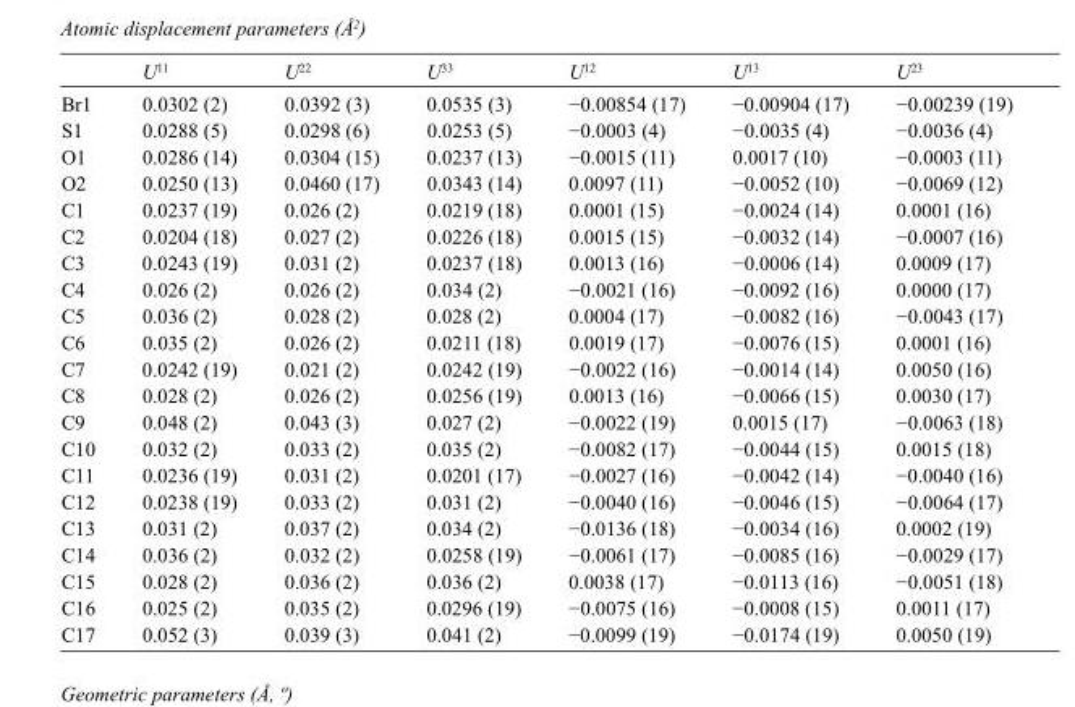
<table><thead><tr><td></td><td>U<sup>11</sup></td><td>U<sup>22</sup></td><td>U<sup>33</sup></td><td>U<sup>12</sup></td><td>U<sup>13</sup></td><td>U<sup>23</sup></td></tr></thead><tbody><tr><td>Br1</td><td>0.0302 (2)</td><td>0.0392 (3)</td><td>0.0535 (3)</td><td>−0.00854 (17)</td><td>−0.00904 (17)</td><td>−0.00239 (19)</td></tr><tr><td>S1</td><td>0.0288 (5)</td><td>0.0298 (6)</td><td>0.0253 (5)</td><td>−0.0003 (4)</td><td>−0.0035 (4)</td><td>−0.0036 (4)</td></tr><tr><td>O1</td><td>0.0286 (14)</td><td>0.0304 (15)</td><td>0.0237 (13)</td><td>−0.0015 (11)</td><td>0.0017 (10)</td><td>−0.0003 (11)</td></tr><tr><td>O2</td><td>0.0250 (13)</td><td>0.0460 (17)</td><td>0.0343 (14)</td><td>0.0097 (11)</td><td>−0.0052 (10)</td><td>−0.0069 (12)</td></tr><tr><td>C1</td><td>0.0237 (19)</td><td>0.026 (2)</td><td>0.0219 (18)</td><td>0.0001 (15)</td><td>−0.0024 (14)</td><td>0.0001 (16)</td></tr><tr><td>C2</td><td>0.0204 (18)</td><td>0.027 (2)</td><td>0.0226 (18)</td><td>0.0015 (15)</td><td>−0.0032 (14)</td><td>−0.0007 (16)</td></tr><tr><td>C3</td><td>0.0243 (19)</td><td>0.031 (2)</td><td>0.0237 (18)</td><td>0.0013 (16)</td><td>−0.0006 (14)</td><td>0.0009 (17)</td></tr><tr><td>C4</td><td>0.026 (2)</td><td>0.026 (2)</td><td>0.034 (2)</td><td>−0.0021 (16)</td><td>−0.0092 (16)</td><td>0.0000 (17)</td></tr><tr><td>C5</td><td>0.036 (2)</td><td>0.028 (2)</td><td>0.028 (2)</td><td>0.0004 (17)</td><td>−0.0082 (16)</td><td>−0.0043 (17)</td></tr><tr><td>C6</td><td>0.035 (2)</td><td>0.026 (2)</td><td>0.0211 (18)</td><td>0.0019 (17)</td><td>−0.0076 (15)</td><td>0.0001 (16)</td></tr><tr><td>C7</td><td>0.0242 (19)</td><td>0.021 (2)</td><td>0.0242 (19)</td><td>−0.0022 (16)</td><td>−0.0014 (14)</td><td>0.0050 (16)</td></tr><tr><td>C8</td><td>0.028 (2)</td><td>0.026 (2)</td><td>0.0256 (19)</td><td>0.0013 (16)</td><td>−0.0066 (15)</td><td>0.0030 (17)</td></tr><tr><td>C9</td><td>0.048 (2)</td><td>0.043 (3)</td><td>0.027 (2)</td><td>−0.0022 (19)</td><td>0.0015 (17)</td><td>−0.0063 (18)</td></tr><tr><td>C10</td><td>0.032 (2)</td><td>0.033 (2)</td><td>0.035 (2)</td><td>−0.0082 (17)</td><td>−0.0044 (15)</td><td>0.0015 (18)</td></tr><tr><td>C11</td><td>0.0236 (19)</td><td>0.031 (2)</td><td>0.0201 (17)</td><td>−0.0027 (16)</td><td>−0.0042 (14)</td><td>−0.0040 (16)</td></tr><tr><td>C12</td><td>0.0238 (19)</td><td>0.033 (2)</td><td>0.031 (2)</td><td>−0.0040 (16)</td><td>−0.0046 (15)</td><td>−0.0064 (17)</td></tr><tr><td>C13</td><td>0.031 (2)</td><td>0.037 (2)</td><td>0.034 (2)</td><td>−0.0136 (18)</td><td>−0.0034 (16)</td><td>0.0002 (19)</td></tr><tr><td>C14</td><td>0.036 (2)</td><td>0.032 (2)</td><td>0.0258 (19)</td><td>−0.0061 (17)</td><td>−0.0085 (16)</td><td>−0.0029 (17)</td></tr><tr><td>C15</td><td>0.028 (2)</td><td>0.036 (2)</td><td>0.036 (2)</td><td>0.0038 (17)</td><td>−0.0113 (16)</td><td>−0.0051 (18)</td></tr><tr><td>C16</td><td>0.025 (2)</td><td>0.035 (2)</td><td>0.0296 (19)</td><td>−0.0075 (16)</td><td>−0.0008 (15)</td><td>0.0011 (17)</td></tr><tr><td>C17</td><td>0.052 (3)</td><td>0.039 (3)</td><td>0.041 (2)</td><td>−0.0099 (19)</td><td>−0.0174 (19)</td><td>0.0050 (19)</td></tr></tbody></table>